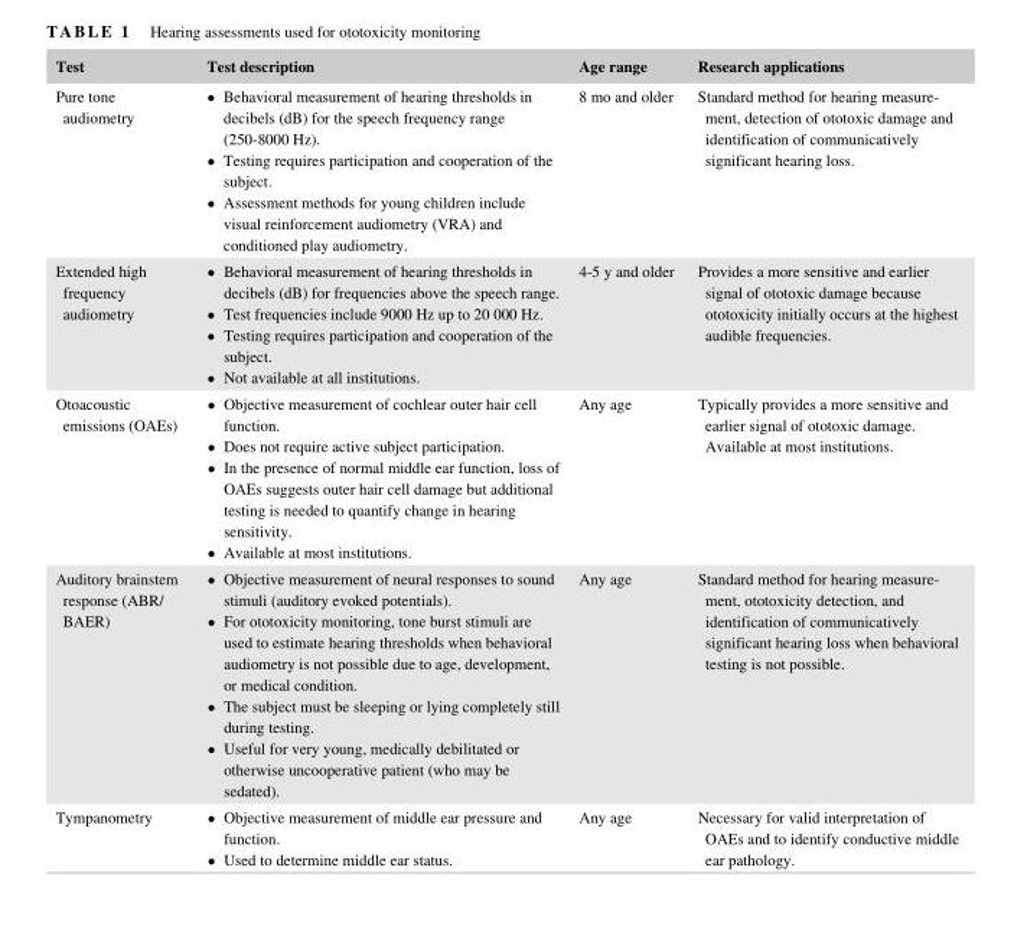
<table><thead><tr><td>Test</td><td>Test description</td><td>Age range</td><td>Research applications</td></tr></thead><tbody><tr><td>Pure tone audiometry</td><td>• Behavioral measurement of hearing thresholds in decibels (dB) for the speech frequency range (250-8000 Hz). • Testing requires participation and cooperation of the subject. • Assessment methods for young children include visual reinforcement audiometry (VRA) and conditioned play audiometry.</td><td>8 mo and older</td><td>Standard method for hearing measure- ment, detection of ototoxic damage and identification of communicatively significant hearing loss.</td></tr><tr><td>Extended high frequency audiometry</td><td>• Behavioral measurement of hearing thresholds in decibels (dB) for frequencies above the speech range. • Test frequencies include 9000 Hz up to 20 000 Hz. • Testing requires participation and cooperation of the subject. • Not available at all institutions.</td><td>4- 5 y and older</td><td>Provides a more sensitive and earlier signal of ototoxic damage because ototoxicity initially occurs at the highest audible frequencies.</td></tr><tr><td>Otoacoustic emissions (OAEs)</td><td>• Objective measurement of cochlear outer hair cell function. • Does not require active subject participation. • In the presence of normal middle ear function, loss of OAEs suggests outer hair cell damage but additional testing is needed to quantify change in hearing sensitivity. • Available at most institutions.</td><td>Any age</td><td>Typically provides a more sensitive and earlier signal of ototoxic damage. Available at most institutions.</td></tr><tr><td>Auditory brainstem response (ABR/ BAER)</td><td>• Objective measurement of neural responses to sound stimuli (auditory evoked potentials). • For ototoxicity monitoring, tone burst stimuli are used to estimate hearing thresholds when behavioral audiometry is not possible due to age, development, or medical condition. • The subject must be sleeping or lying completely still during testing. • Useful for very young, medically debilitated or otherwise uncooperative patient (who may be sedated).</td><td>Any age</td><td>Standard method for hearing measure- ment, ototoxicity detection, and identification of communicatively significant hearing loss when behavioral testing is not possible.</td></tr><tr><td>Tympanometry</td><td>• Objective measurement of middle ear pressure and function. • Used to determine middle ear status.</td><td>Any age</td><td>Necessary for valid interpretation of OAEs and to identify conductive middle ear pathology.</td></tr></tbody></table>